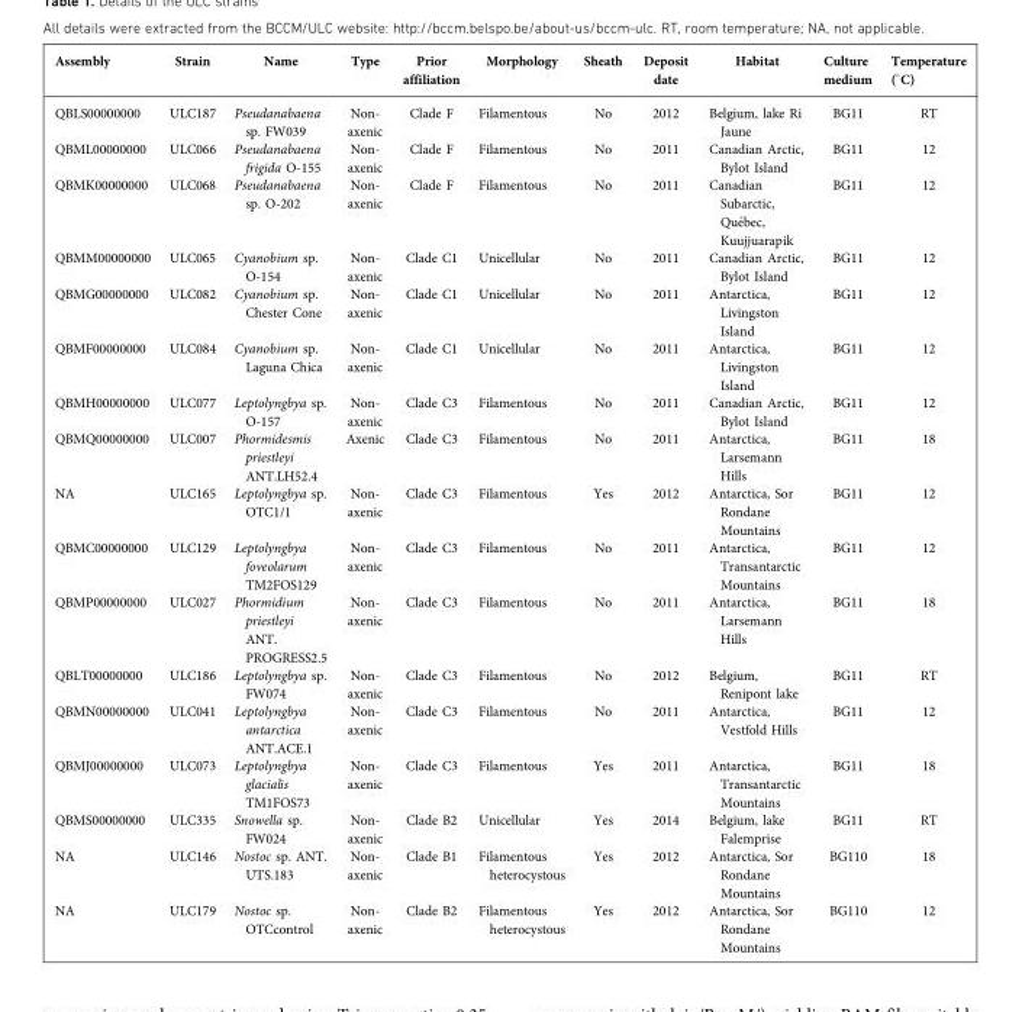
<table><thead><tr><td>Assembly</td><td>Strain</td><td>Name</td><td>Type</td><td>Prior affiliation</td><td>Morphology</td><td>Sheath</td><td>Deposit date</td><td>Habitat</td><td>Culture medium</td><td>Temperature ( °C)</td></tr></thead><tbody><tr><td>QBLS00000000</td><td>ULC187</td><td>Pseudanabaena sp. FW039</td><td>Non- axenic</td><td>Clade F</td><td>Filamentous</td><td>No</td><td>2012</td><td>Belgium, lake Ri Jaune</td><td>BG11</td><td>RT</td></tr><tr><td>QBML00000000</td><td>ULC066</td><td>Pseudanabaena frigida O-155</td><td>Non- axenic</td><td>Clade F</td><td>Filamentous</td><td>No</td><td>2011</td><td>Canadian Arctic, Bylot Island</td><td>BG11</td><td>12</td></tr><tr><td>QBMK00000000</td><td>ULC068</td><td>Pseudanabaena sp. O-202</td><td>Non- axenic</td><td>Clade F</td><td>Filamentous</td><td>No</td><td>2011</td><td>Canadian Subarctic, Qu�ebec, Kuujjuarapik</td><td>BG11</td><td>12</td></tr><tr><td>QBMM00000000</td><td>ULC065</td><td>Cyanobium sp. O-154</td><td>Non- axenic</td><td>Clade C1</td><td>Unicellular</td><td>No</td><td>2011</td><td>Canadian Arctic, Bylot Island</td><td>BG11</td><td>12</td></tr><tr><td>QBMG00000000</td><td>ULC082</td><td>Cyanobium sp. Chester Cone</td><td>Non- axenic</td><td>Clade C1</td><td>Unicellular</td><td>No</td><td>2011</td><td>Antarctica, Livingston Island</td><td>BG11</td><td>12</td></tr><tr><td>QBMF00000000</td><td>ULC084</td><td>Cyanobium sp. Laguna Chica</td><td>Non- axenic</td><td>Clade C1</td><td>Unicellular</td><td>No</td><td>2011</td><td>Antarctica, Livingston Island</td><td>BG11</td><td>12</td></tr><tr><td>QBMH00000000</td><td>ULC077</td><td>Leptolyngbya sp. O-157</td><td>Non- axenic</td><td>Clade C3</td><td>Filamentous</td><td>No</td><td>2011</td><td>Canadian Arctic, Bylot Island</td><td>BG11</td><td>12</td></tr><tr><td>QBMQ00000000</td><td>ULC007</td><td>Phormidesmis priestleyi ANT.LH52.4</td><td>Axenic</td><td>Clade C3</td><td>Filamentous</td><td>No</td><td>2011</td><td>Antarctica, Larsemann Hills</td><td>BG11</td><td>18</td></tr><tr><td>NA</td><td>ULC165</td><td>Leptolyngbya sp. OTC1/1</td><td>Non- axenic</td><td>Clade C3</td><td>Filamentous</td><td>Yes</td><td>2012</td><td>Antarctica, Sor Rondane Mountains</td><td>BG11</td><td>12</td></tr><tr><td>QBMC00000000</td><td>ULC129</td><td>Leptolyngbya foveolarum TM2FOS129</td><td>Non- axenic</td><td>Clade C3</td><td>Filamentous</td><td>No</td><td>2011</td><td>Antarctica, Transantarctic Mountains</td><td>BG11</td><td>12</td></tr><tr><td>QBMP00000000</td><td>ULC027</td><td>Phormidium priestleyi ANT. PROGRESS2.5</td><td>Non- axenic</td><td>Clade C3</td><td>Filamentous</td><td>No</td><td>2011</td><td>Antarctica, Larsemann Hills</td><td>BG11</td><td>18</td></tr><tr><td>QBLT00000000</td><td>ULC186</td><td>Leptolyngbya sp. FW074</td><td>Non- axenic</td><td>Clade C3</td><td>Filamentous</td><td>No</td><td>2012</td><td>Belgium, Renipont lake</td><td>BG11</td><td>RT</td></tr><tr><td>QBMN00000000</td><td>ULC041</td><td>Leptolyngbya antarctica ANT.ACE.1</td><td>Non- axenic</td><td>Clade C3</td><td>Filamentous</td><td>No</td><td>2011</td><td>Antarctica, Vestfold Hills</td><td>BG11</td><td>12</td></tr><tr><td>QBMJ00000000</td><td>ULC073</td><td>Leptolyngbya glacialis TM1FOS73</td><td>Non- axenic</td><td>Clade C3</td><td>Filamentous</td><td>Yes</td><td>2011</td><td>Antarctica, Transantarctic Mountains</td><td>BG11</td><td>18</td></tr><tr><td>QBMS00000000</td><td>ULC335</td><td>Snowella sp. FW024</td><td>Non- axenic</td><td>Clade B2</td><td>Unicellular</td><td>Yes</td><td>2014</td><td>Belgium, lake Falemprise</td><td>BG11</td><td>RT</td></tr><tr><td>NA</td><td>ULC146</td><td>Nostoc sp. ANT. UTS.183</td><td>Non- axenic</td><td>Clade B1</td><td>Filamentous heterocystous</td><td>Yes</td><td>2012</td><td>Antarctica, Sor Rondane Mountains</td><td>BG110</td><td>18</td></tr><tr><td>NA</td><td>ULC179</td><td>Nostoc sp. OTCcontrol</td><td>Non- axenic</td><td>Clade B2</td><td>Filamentous heterocystous</td><td>Yes</td><td>2012</td><td>Antarctica, Sor Rondane Mountains</td><td>BG110</td><td>12</td></tr></tbody></table>